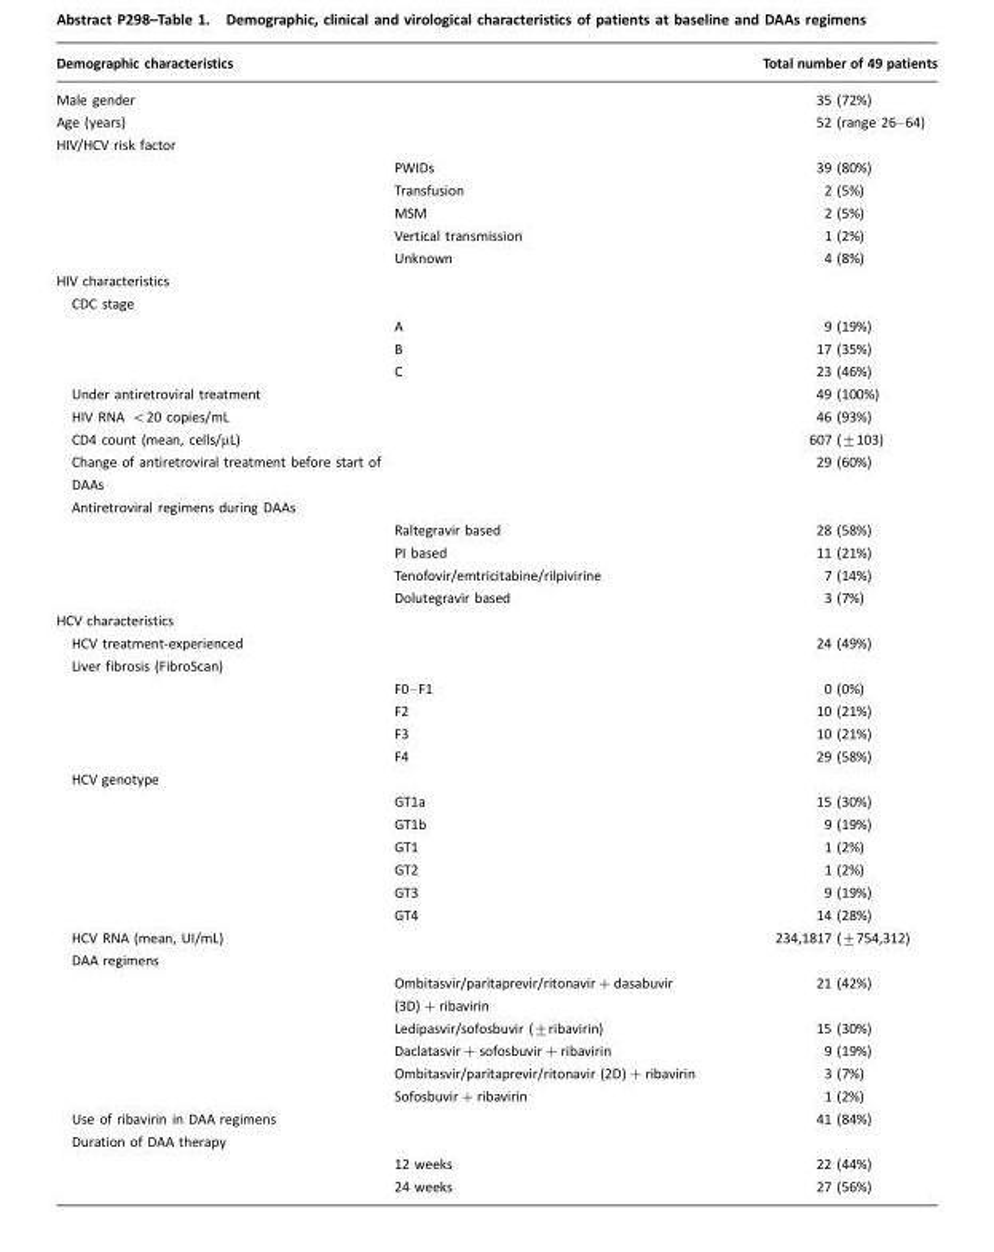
<table><thead><tr><td>Demographic characteristics</td><td></td><td>Total number of 49 patients</td></tr></thead><tbody><tr><td>Male gender</td><td></td><td>35 (72%)</td></tr><tr><td>Age (years)</td><td></td><td>52 (range 26–64)</td></tr><tr><td colspan="3">HIV/HCV risk factor</td></tr><tr><td></td><td>PWIDs</td><td>39 (80%)</td></tr><tr><td></td><td>Transfusion</td><td>2 (5%)</td></tr><tr><td></td><td>MSM</td><td>2 (5%)</td></tr><tr><td></td><td>Vertical transmission</td><td>1 (2%)</td></tr><tr><td></td><td>Unknown</td><td>4 (8%)</td></tr><tr><td colspan="3">HIV characteristics</td></tr><tr><td colspan="3">CDC stage</td></tr><tr><td></td><td>A</td><td>9 (19%)</td></tr><tr><td></td><td>B</td><td>17 (35%)</td></tr><tr><td></td><td>C</td><td>23 (46%)</td></tr><tr><td>Under antiretroviral treatment</td><td></td><td>49 (100%)</td></tr><tr><td>HIV RNA &lt;20 copies/mL</td><td></td><td>46 (93%)</td></tr><tr><td>CD4 count (mean, cells/µL)</td><td></td><td>607 (±103)</td></tr><tr><td>Change of antiretroviral treatment before start of DAAs</td><td></td><td>29 (60%)</td></tr><tr><td colspan="3">Antiretroviral regimens during DAAs</td></tr><tr><td></td><td>Raltegravir based</td><td>28 (58%)</td></tr><tr><td></td><td>PI based</td><td>11 (21%)</td></tr><tr><td></td><td>Tenofovir/emtricitabine/rilpivirine</td><td>7 (14%)</td></tr><tr><td></td><td>Dolutegravir based</td><td>3 (7%)</td></tr><tr><td colspan="3">HCV characteristics</td></tr><tr><td>HCV treatment-experienced</td><td></td><td>24 (49%)</td></tr><tr><td colspan="3">Liver fibrosis (FibroScan)</td></tr><tr><td></td><td>F0–F1</td><td>0 (0%)</td></tr><tr><td></td><td>F2</td><td>10 (21%)</td></tr><tr><td></td><td>F3</td><td>10 (21%)</td></tr><tr><td></td><td>F4</td><td>29 (58%)</td></tr><tr><td colspan="3">HCV genotype</td></tr><tr><td></td><td>GT1a</td><td>15 (30%)</td></tr><tr><td></td><td>GT1b</td><td>9 (19%)</td></tr><tr><td></td><td>GT1</td><td>1 (2%)</td></tr><tr><td></td><td>GT2</td><td>1 (2%)</td></tr><tr><td></td><td>GT3</td><td>9 (19%)</td></tr><tr><td></td><td>GT4</td><td>14 (28%)</td></tr><tr><td>HCV RNA (mean, UI/mL)</td><td></td><td>234,1817 (±754,312)</td></tr><tr><td colspan="3">DAA regimens</td></tr><tr><td></td><td>Ombitasvir/paritaprevir/ritonavir+dasabuvir (3D)+ribavirin</td><td>21 (42%)</td></tr><tr><td></td><td>Ledipasvir/sofosbuvir (±ribavirin)</td><td>15 (30%)</td></tr><tr><td></td><td>Daclatasvir+sofosbuvir+ribavirin</td><td>9 (19%)</td></tr><tr><td></td><td>Ombitasvir/paritaprevir/ritonavir (2D)+ribavirin</td><td>3 (7%)</td></tr><tr><td></td><td>Sofosbuvir+ribavirin</td><td>1 (2%)</td></tr><tr><td>Use of ribavirin in DAA regimens</td><td></td><td>41 (84%)</td></tr><tr><td colspan="3">Duration of DAA therapy</td></tr><tr><td></td><td>12 weeks</td><td>22 (44%)</td></tr><tr><td></td><td>24 weeks</td><td>27 (56%)</td></tr></tbody></table>